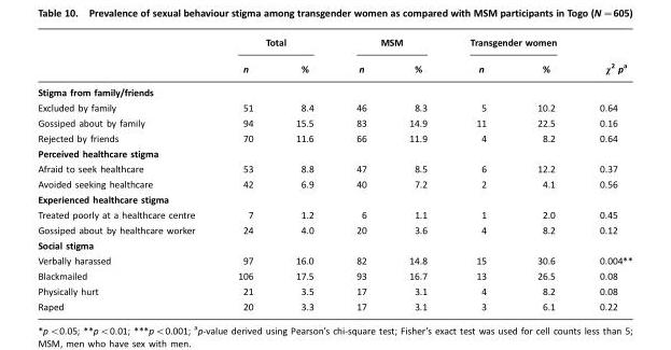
<table><thead><tr><td rowspan="2"></td><td colspan="2">Total</td><td colspan="2">MSM</td><td colspan="2">Transgender women</td><td rowspan="2">χ<sup>2</sup> p<sup>a</sup></td></tr><tr><td>n</td><td>%</td><td>n</td><td>%</td><td>n</td><td>%</td></tr></thead><tbody><tr><td colspan="8">Stigma from family/friends</td></tr><tr><td>Excluded by family</td><td>51</td><td>8.4</td><td>46</td><td>8.3</td><td>5</td><td>10.2</td><td>0.64</td></tr><tr><td>Gossiped about by family</td><td>94</td><td>15.5</td><td>83</td><td>14.9</td><td>11</td><td>22.5</td><td>0.16</td></tr><tr><td>Rejected by friends</td><td>70</td><td>11.6</td><td>66</td><td>11.9</td><td>4</td><td>8.2</td><td>0.64</td></tr><tr><td colspan="8">Perceived healthcare stigma</td></tr><tr><td>Afraid to seek healthcare</td><td>53</td><td>8.8</td><td>47</td><td>8.5</td><td>6</td><td>12.2</td><td>0.37</td></tr><tr><td>Avoided seeking healthcare</td><td>42</td><td>6.9</td><td>40</td><td>7.2</td><td>2</td><td>4.1</td><td>0.56</td></tr><tr><td colspan="8">Experienced healthcare stigma</td></tr><tr><td>Treated poorly at a healthcare centre</td><td>7</td><td>1.2</td><td>6</td><td>1.1</td><td>1</td><td>2.0</td><td>0.45</td></tr><tr><td>Gossiped about by healthcare worker</td><td>24</td><td>4.0</td><td>20</td><td>3.6</td><td>4</td><td>8.2</td><td>0.12</td></tr><tr><td colspan="8">Social stigma</td></tr><tr><td>Verbally harassed</td><td>97</td><td>16.0</td><td>82</td><td>14.8</td><td>15</td><td>30.6</td><td>0.004**</td></tr><tr><td>Blackmailed</td><td>106</td><td>17.5</td><td>93</td><td>16.7</td><td>13</td><td>26.5</td><td>0.08</td></tr><tr><td>Physically hurt</td><td>21</td><td>3.5</td><td>17</td><td>3.1</td><td>4</td><td>8.2</td><td>0.08</td></tr><tr><td>Raped</td><td>20</td><td>3.3</td><td>17</td><td>3.1</td><td>3</td><td>6.1</td><td>0.22</td></tr></tbody></table>